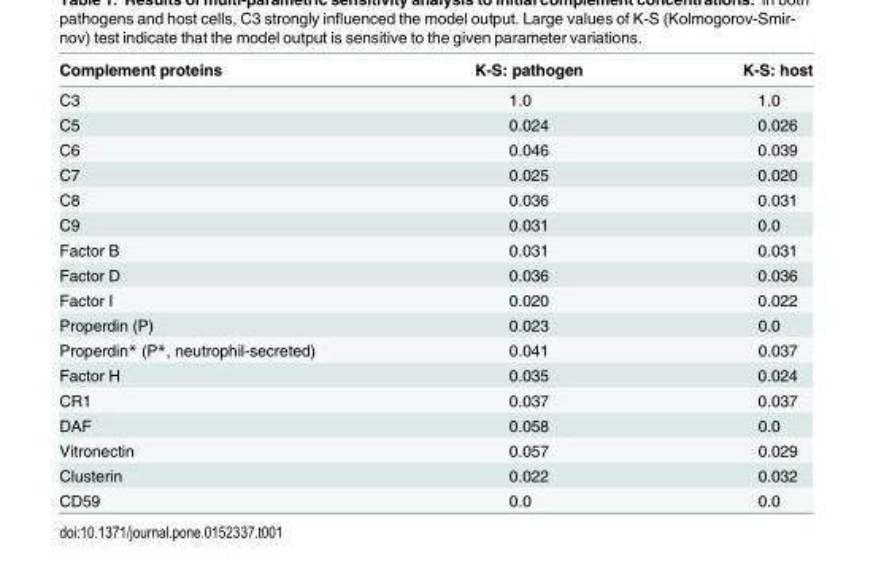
<table><thead><tr><td>Complement proteins</td><td>K-S: pathogen</td><td>K-S: host</td></tr></thead><tbody><tr><td>C3</td><td>1.0</td><td>1.0</td></tr><tr><td>C5</td><td>0.024</td><td>0.026</td></tr><tr><td>C6</td><td>0.046</td><td>0.039</td></tr><tr><td>C7</td><td>0.025</td><td>0.020</td></tr><tr><td>C8</td><td>0.036</td><td>0.031</td></tr><tr><td>C9</td><td>0.031</td><td>0.0</td></tr><tr><td>Factor B</td><td>0.031</td><td>0.031</td></tr><tr><td>Factor D</td><td>0.036</td><td>0.036</td></tr><tr><td>Factor I</td><td>0.020</td><td>0.022</td></tr><tr><td>Properdin (P)</td><td>0.023</td><td>0.0</td></tr><tr><td>Properdin* (P*, neutrophil-secreted)</td><td>0.041</td><td>0.037</td></tr><tr><td>Factor H</td><td>0.035</td><td>0.024</td></tr><tr><td>CR1</td><td>0.037</td><td>0.037</td></tr><tr><td>DAF</td><td>0.058</td><td>0.0</td></tr><tr><td>Vitronectin</td><td>0.057</td><td>0.029</td></tr><tr><td>Clusterin</td><td>0.022</td><td>0.032</td></tr><tr><td>CD59</td><td>0.0</td><td>0.0</td></tr></tbody></table>